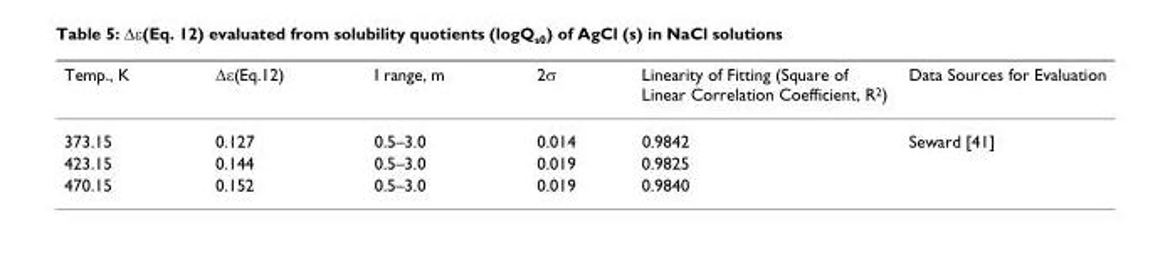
<table><thead><tr><td>Temp., K</td><td>∆ε(Eq.12)</td><td>I range, m</td><td>2σ</td><td>Linearity of Fitting (Square of Linear Correlation Coefficient, R<sup>2</sup>)</td><td>Data Sources for Evaluation</td></tr></thead><tbody><tr><td>373.15</td><td>0.127</td><td>0.5–3.0</td><td>0.014</td><td>0.9842</td><td>Seward [41]</td></tr><tr><td>423.15</td><td>0.144</td><td>0.5–3.0</td><td>0.019</td><td>0.9825</td><td></td></tr><tr><td>470.15</td><td>0.152</td><td>0.5–3.0</td><td>0.019</td><td>0.9840</td><td></td></tr></tbody></table>